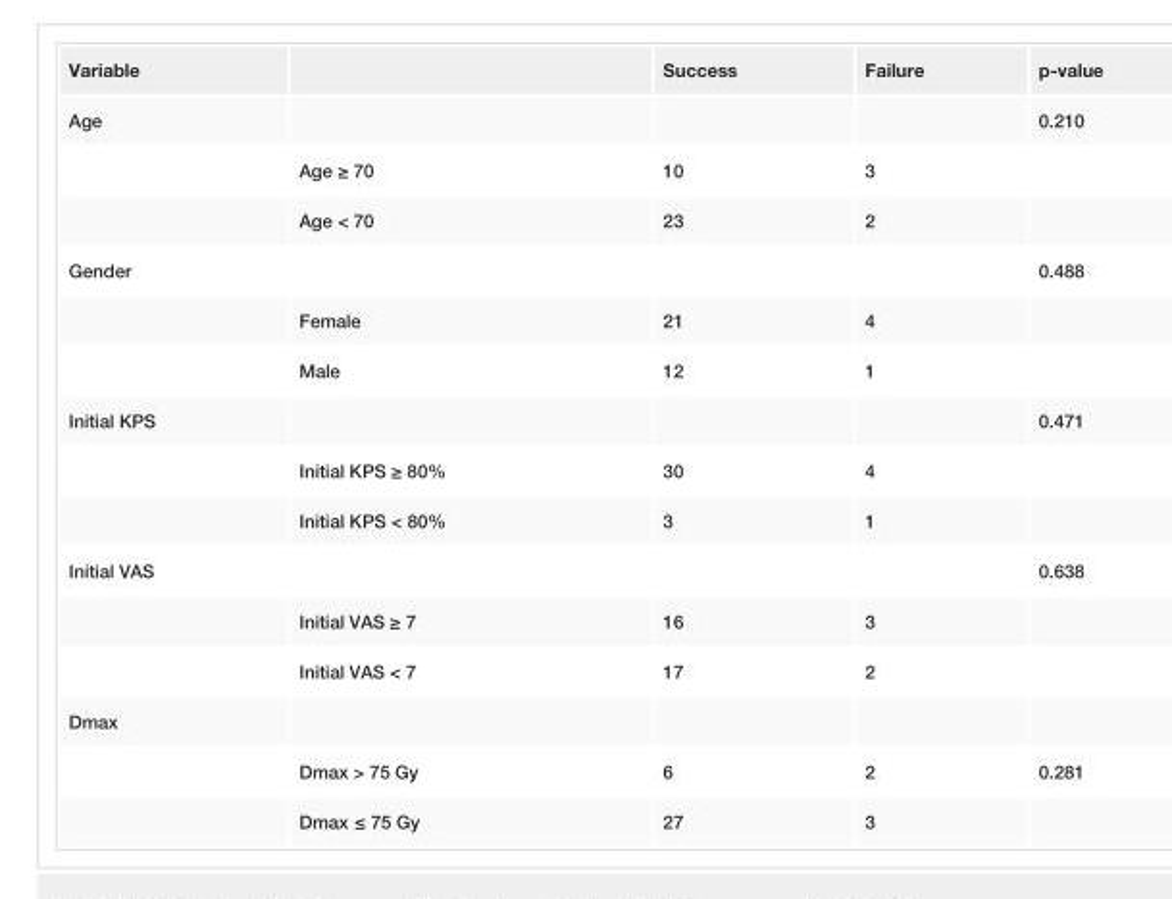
<table><tbody><tr><td>Variable</td><td></td><td>Success</td><td>Failure</td><td>p-value</td></tr><tr><td rowspan="3">Age</td><td></td><td></td><td></td><td>0.210</td></tr><tr><td>Age ≥ 70</td><td>10</td><td>3</td><td></td></tr><tr><td>Age &lt; 70</td><td>23</td><td>2</td><td></td></tr><tr><td rowspan="3">Gender</td><td></td><td></td><td></td><td>0.488</td></tr><tr><td>Female</td><td>21</td><td>4</td><td></td></tr><tr><td>Male</td><td>12</td><td>1</td><td></td></tr><tr><td rowspan="3">Initial KPS</td><td></td><td></td><td></td><td>0.471</td></tr><tr><td>Initial KPS ≥ 80%</td><td>30</td><td>4</td><td></td></tr><tr><td>Initial KPS &lt; 80%</td><td>3</td><td>1</td><td></td></tr><tr><td rowspan="3">Initial VAS</td><td></td><td></td><td></td><td>0.638</td></tr><tr><td>Initial VAS ≥ 7</td><td>16</td><td>3</td><td></td></tr><tr><td>Initial VAS &lt; 7</td><td>17</td><td>2</td><td></td></tr><tr><td colspan="5">Dmax</td></tr><tr><td></td><td>Dmax &gt; 75 Gy</td><td>6</td><td>2</td><td>0.281</td></tr><tr><td></td><td>Dmax ≤ 75 Gy</td><td>27</td><td>3</td><td></td></tr></tbody></table>